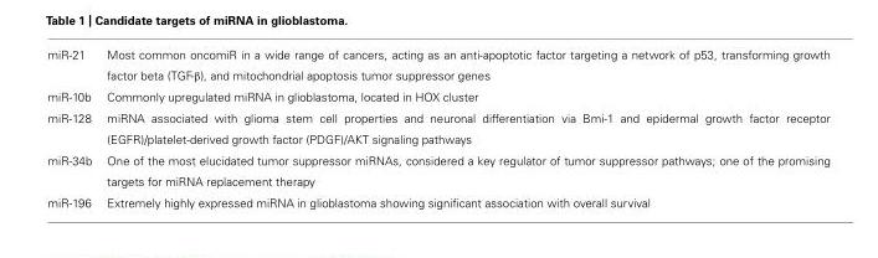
<table><tbody><tr><td>miR-21</td><td>Most common oncomiR in a wide range of cancers, acting as an anti-apoptotic factor targeting a network of p53, transforming growth factor beta (TGF-β), and mitochondrial apoptosis tumor suppressor genes</td></tr><tr><td>miR-10b</td><td>Commonly upregulated miRNA in glioblastoma, located in HOX cluster</td></tr><tr><td>miR-128</td><td>miRNA associated with glioma stem cell properties and neuronal differentiation via Bmi-1 and epidermal growth factor receptor (EGFR)/platelet-derived growth factor (PDGF)/AKT signaling pathways</td></tr><tr><td>miR-34b</td><td>One of the most elucidated tumor suppressor miRNAs, considered a key regulator of tumor suppressor pathways; one of the promising targets for miRNA replacement therapy</td></tr><tr><td>miR-196</td><td>Extremely highly expressed miRNA in glioblastoma showing significant association with overall survival</td></tr></tbody></table>